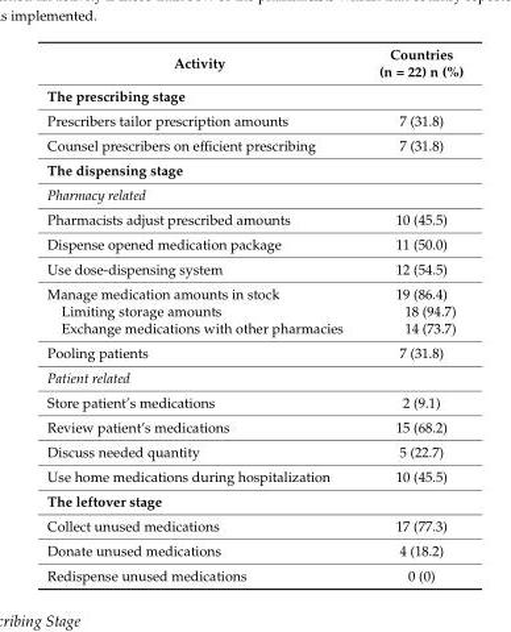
<table><thead><tr><td>Activity</td><td>Countries (n = 22) n (%)</td></tr></thead><tbody><tr><td colspan="2">The prescribing stage</td></tr><tr><td>Prescribers tailor prescription amounts</td><td>7 (31.8)</td></tr><tr><td>Counsel prescribers on efficient prescribing</td><td>7 (31.8)</td></tr><tr><td colspan="2">The dispensing stage</td></tr><tr><td colspan="2">Pharmacy related</td></tr><tr><td>Pharmacists adjust prescribed amounts</td><td>10 (45.5)</td></tr><tr><td>Dispense opened medication package</td><td>11 (50.0)</td></tr><tr><td>Use dose-dispensing system</td><td>12 (54.5)</td></tr><tr><td>Manage medication amounts in stock</td><td>19 (86.4)</td></tr><tr><td>Limiting storage amounts</td><td>18 (94.7)</td></tr><tr><td>Exchange medications with other pharmacies</td><td>14 (73.7)</td></tr><tr><td>Pooling patients</td><td>7 (31.8)</td></tr><tr><td colspan="2">Patient related</td></tr><tr><td>Store patient’s medications</td><td>2 (9.1)</td></tr><tr><td>Review patient’s medications</td><td>15 (68.2)</td></tr><tr><td>Discuss needed quantity</td><td>5 (22.7)</td></tr><tr><td>Use home medications during hospitalization</td><td>10 (45.5)</td></tr><tr><td colspan="2">The leftover stage</td></tr><tr><td>Collect unused medications</td><td>17 (77.3)</td></tr><tr><td>Donate unused medications</td><td>4 (18.2)</td></tr><tr><td>Redispense unused medications</td><td>0 (0)</td></tr></tbody></table>